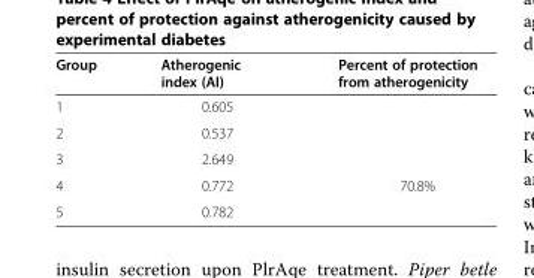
<table><thead><tr><td>Group</td><td>Atherogenic index (AI)</td><td>Percent of protection from atherogenicity</td></tr></thead><tbody><tr><td>1</td><td>0.605</td><td rowspan="3"></td></tr><tr><td>2</td><td>0.537</td></tr><tr><td>3</td><td>2.649</td></tr><tr><td>4</td><td>0.772</td><td>70.8%</td></tr><tr><td>5</td><td>0.782</td><td></td></tr></tbody></table>